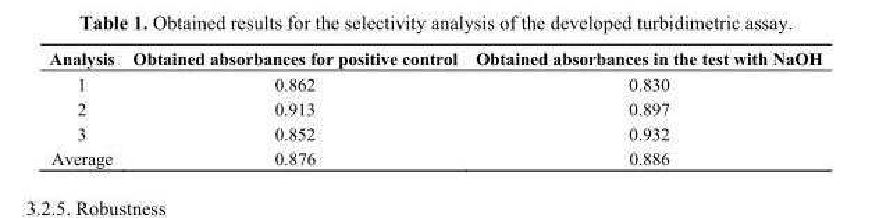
<table><thead><tr><td>Analysis</td><td>Obtained absorbances for positive control</td><td>Obtained absorbances in the test with NaOH</td></tr></thead><tbody><tr><td>1</td><td>0.862</td><td>0.830</td></tr><tr><td>2</td><td>0.913</td><td>0.897</td></tr><tr><td>3</td><td>0.852</td><td>0.932</td></tr><tr><td>Average</td><td>0.876</td><td>0.886</td></tr></tbody></table>